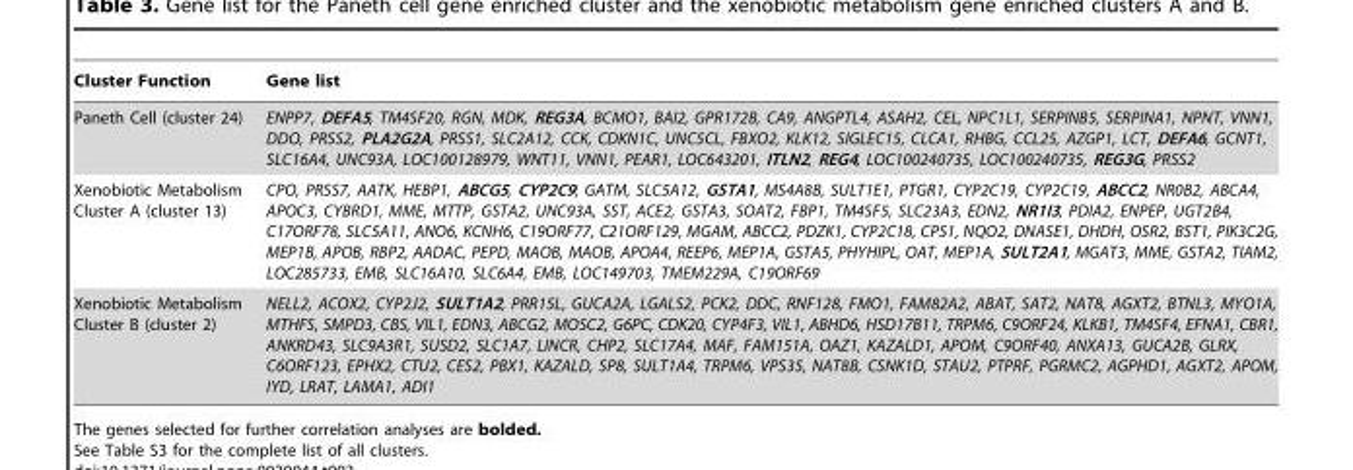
<table><thead><tr><td>Cluster Function</td><td>Gene list</td></tr></thead><tbody><tr><td>Paneth Cell (cluster 24)</td><td>ENPP7, DEFA5, TM4SF20, RGN, MDK, REG3A, BCMO1, BAI2, GPR172B, CA9, ANGPTL4, ASAH2, CEL, NPC1L1, SERPINB5, SERPINA1, NPNT, VNN1, DDO, PRSS2, PLA2G2A, PRSS1, SLC2A12, CCK, CDKN1C, UNC5CL, FBXO2, KLK12, SIGLEC15, CLCA1, RHBG, CCL25, AZGP1, LCT, DEFA6, GCNT1, SLC16A4, UNC93A, LOC100128979, WNT11, VNN1, PEAR1, LOC643201, ITLN2, REG4, LOC100240735, LOC100240735, REG3G, PRSS2</td></tr><tr><td>Xenobiotic Metabolism Cluster A (cluster 13)</td><td>CPO, PRSS7, AATK, HEBP1, ABCG5, CYP2C9, GATM, SLC5A12, GSTA1, MS4A8B, SULT1E1, PTGR1, CYP2C19, CYP2C19, ABCC2, NR0B2, ABCA4, APOC3, CYBRD1, MME, MTTP, GSTA2, UNC93A, SST, ACE2, GSTA3, SOAT2, FBP1, TM4SF5, SLC23A3, EDN2, NR1I3, PDIA2, ENPEP, UGT2B4, C17ORF78, SLC5A11, ANO6, KCNH6, C19ORF77, C21ORF129, MGAM, ABCC2, PDZK1, CYP2C18, CPS1, NQO2, DNASE1, DHDH, OSR2, BST1, PIK3C2G, MEP1B, APOB, RBP2, AADAC, PEPD, MAOB, MAOB, APOA4, REEP6, MEP1A, GSTA5, PHYHIPL, OAT, MEP1A, SULT2A1, MGAT3, MME, GSTA2, TIAM2, LOC285733, EMB, SLC16A10, SLC6A4, EMB, LOC149703, TMEM229A, C19ORF69</td></tr><tr><td>Xenobiotic Metabolism Cluster B (cluster 2)</td><td>NELL2, ACOX2, CYP2J2, SULT1A2, PRR15L, GUCA2A, LGALS2, PCK2, DDC, RNF128, FMO1, FAM82A2, ABAT, SAT2, NAT8, AGXT2, BTNL3, MYO1A, MTHFS, SMPD3, CBS, VIL1, EDN3, ABCG2, MOSC2, G6PC, CDK20, CYP4F3, VIL1, ABHD6, HSD17B11, TRPM6, C9ORF24, KLKB1, TM4SF4, EFNA1, CBR1, ANKRD43, SLC9A3R1, SUSD2, SLC1A7, LINCR, CHP2, SLC17A4, MAF, FAM151A, OAZ1, KAZALD1, APOM, C9ORF40, ANXA13, GUCA2B, GLRX, C6ORF123, EPHX2, CTU2, CES2, PBX1, KAZALD, SP8, SULT1A4, TRPM6, VPS35, NAT8B, CSNK1D, STAU2, PTPRF, PGRMC2, AGPHD1, AGXT2, APOM, IYD, LRAT, LAMA1, ADI1</td></tr></tbody></table>